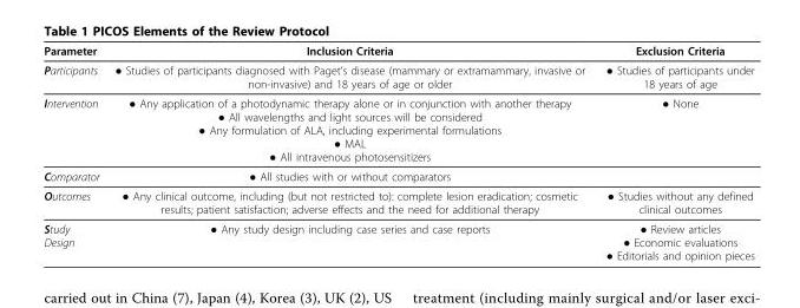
<table><thead><tr><td>Parameter</td><td>Inclusion Criteria</td><td>Exclusion Criteria</td></tr></thead><tbody><tr><td>Participants</td><td>● Studies of participants diagnosed with Paget’s disease (mammary or extramammary, invasive or non-invasive) and 18 years of age or older</td><td>● Studies of participants under 18 years of age</td></tr><tr><td>Intervention</td><td>● Any application of a photodynamic therapy alone or in conjunction with another therapy ● All wavelengths and light sources will be considered ● Any formulation of ALA, including experimental formulations ● MAL ● All intravenous photosensitizers</td><td>● None</td></tr><tr><td>Comparator</td><td>● All studies with or without comparators</td><td></td></tr><tr><td>Outcomes</td><td>● Any clinical outcome, including (but not restricted to): complete lesion eradication; cosmetic results; patient satisfaction; adverse effects and the need for additional therapy</td><td>● Studies without any defined clinical outcomes</td></tr><tr><td>Study Design</td><td>● Any study design including case series and case reports</td><td>● Review articles ● Economic evaluations ● Editorials and opinion pieces</td></tr></tbody></table>